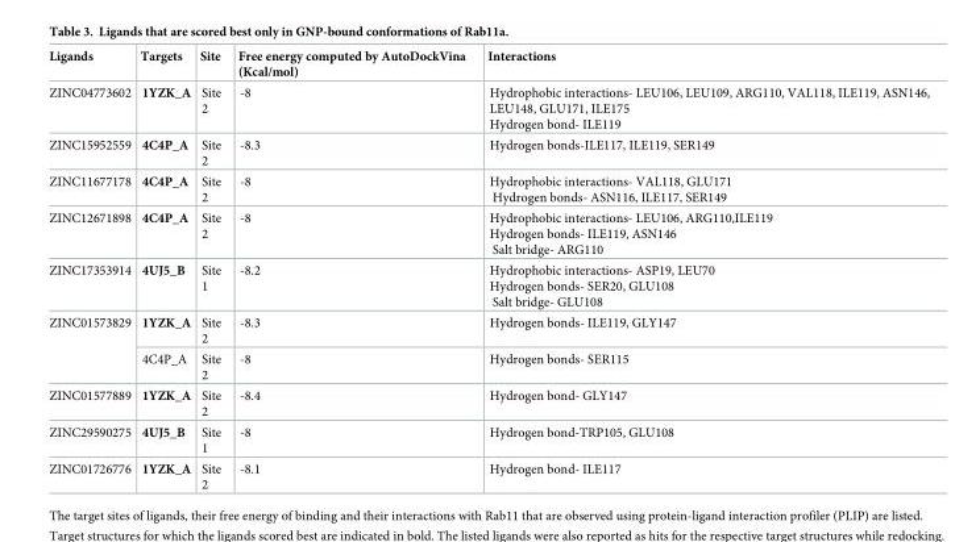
<table><thead><tr><td>Ligands</td><td>Targets</td><td>Site</td><td>Free energy computed by AutoDockVina (Kcal/mol)</td><td>Interactions</td></tr></thead><tbody><tr><td>ZINC04773602</td><td>1YZK_A</td><td>Site 2</td><td>-8</td><td>Hydrophobic interactions- LEU106, LEU109, ARG110, VAL118, ILE119, ASN146, LEU148, GLU171, ILE175 Hydrogen bond- ILE119</td></tr><tr><td>ZINC15952559</td><td>4C4P_A</td><td>Site 2</td><td>-8.3</td><td>Hydrogen bonds-ILE117, ILE119, SER149</td></tr><tr><td>ZINC11677178</td><td>4C4P_A</td><td>Site 2</td><td>-8</td><td>Hydrophobic interactions- VAL118, GLU171 Hydrogen bonds- ASN116, ILE117, SER149</td></tr><tr><td>ZINC12671898</td><td>4C4P_A</td><td>Site 2</td><td>-8</td><td>Hydrophobic interactions- LEU106, ARG110,ILE119 Hydrogen bonds- ILE119, ASN146 Salt bridge- ARG110</td></tr><tr><td>ZINC17353914</td><td>4UJ5_B</td><td>Site 1</td><td>-8.2</td><td>Hydrophobic interactions- ASP19, LEU70 Hydrogen bonds- SER20, GLU108 Salt bridge- GLU108</td></tr><tr><td rowspan="2">ZINC01573829</td><td>1YZK_A</td><td>Site 2</td><td>-8.3</td><td>Hydrogen bonds- ILE119, GLY147</td></tr><tr><td>4C4P_A</td><td>Site 2</td><td>-8</td><td>Hydrogen bonds- SER115</td></tr><tr><td>ZINC01577889</td><td>1YZK_A</td><td>Site 2</td><td>-8.4</td><td>Hydrogen bond- GLY147</td></tr><tr><td>ZINC29590275</td><td>4UJ5_B</td><td>Site 1</td><td>-8</td><td>Hydrogen bond-TRP105, GLU108</td></tr><tr><td>ZINC01726776</td><td>1YZK_A</td><td>Site 2</td><td>-8.1</td><td>Hydrogen bond- ILE117</td></tr></tbody></table>